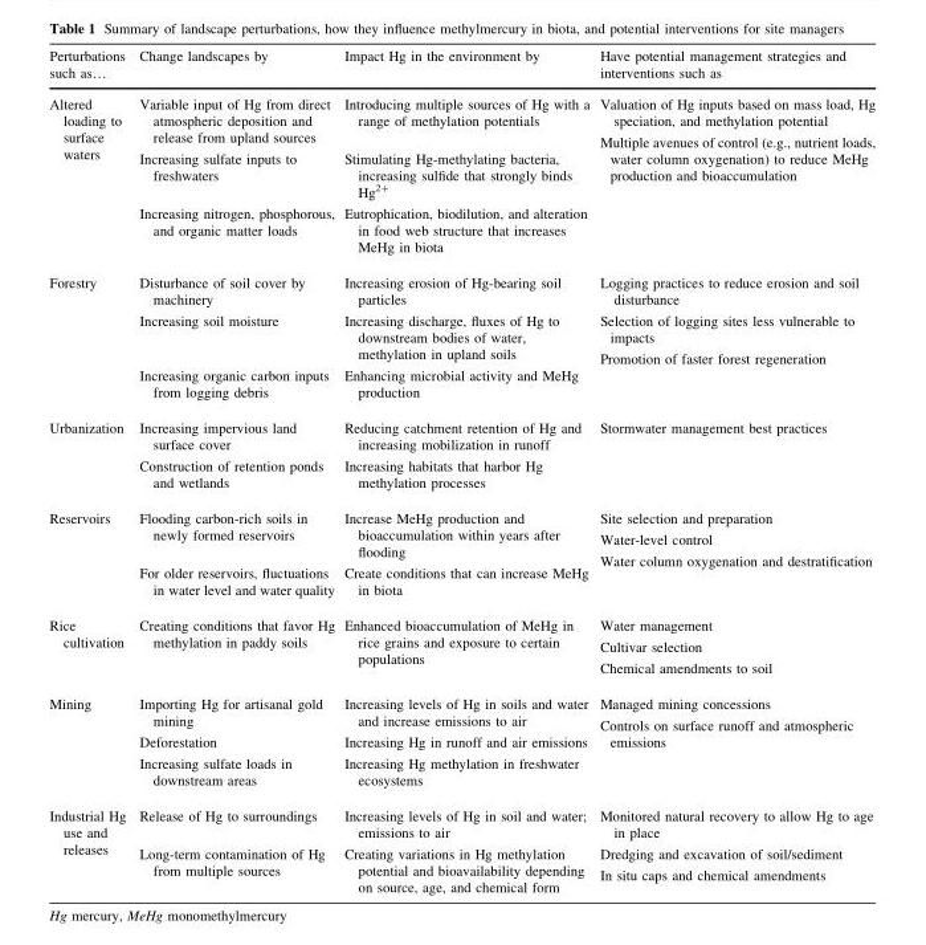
<table><thead><tr><td>Perturbations such as…</td><td>Change landscapes by</td><td>Impact Hg in the environment by</td><td>Have potential management strategies and interventions such as</td></tr></thead><tbody><tr><td rowspan="3">Altered loading to surface waters</td><td>Variable input of Hg from direct atmospheric deposition and release from upland sources</td><td>Introducing multiple sources of Hg with a range of methylation potentials</td><td rowspan="3">Valuation of Hg inputs based on mass load, Hg speciation, and methylation potential Multiple avenues of control (e.g., nutrient loads, water column oxygenation) to reduce MeHg production and bioaccumulation</td></tr><tr><td>Increasing sulfate inputs to freshwaters</td><td>Stimulating Hg-methylating bacteria, increasing sulfide that strongly binds Hg<sup>2+</sup></td></tr><tr><td>Increasing nitrogen, phosphorous, and organic matter loads</td><td>Eutrophication, biodilution, and alteration in food web structure that increases MeHg in biota</td></tr><tr><td rowspan="3">Forestry</td><td>Disturbance of soil cover by machinery</td><td>Increasing erosion of Hg-bearing soil particles</td><td rowspan="3">Logging practices to reduce erosion and soil disturbance Selection of logging sites less vulnerable to impacts Promotion of faster forest regeneration</td></tr><tr><td>Increasing soil moisture</td><td>Increasing discharge, fluxes of Hg to downstream bodies of water, methylation in upland soils</td></tr><tr><td>Increasing organic carbon inputs from logging debris</td><td>Enhancing microbial activity and MeHg production</td></tr><tr><td rowspan="2">Urbanization</td><td>Increasing impervious land surface cover</td><td>Reducing catchment retention of Hg and increasing mobilization in runoff</td><td rowspan="2">Stormwater management best practices</td></tr><tr><td>Construction of retention ponds and wetlands</td><td>Increasing habitats that harbor Hg methylation processes</td></tr><tr><td rowspan="2">Reservoirs</td><td>Flooding carbon-rich soils in newly formed reservoirs</td><td>Increase MeHg production and bioaccumulation within years after flooding</td><td rowspan="2">Site selection and preparation Water-level control Water column oxygenation and destratification</td></tr><tr><td>For older reservoirs, fluctuations in water level and water quality</td><td>Create conditions that can increase MeHg in biota</td></tr><tr><td>Rice cultivation</td><td>Creating conditions that favor Hg methylation in paddy soils</td><td>Enhanced bioaccumulation of MeHg in rice grains and exposure to certain populations</td><td>Water management Cultivar selection Chemical amendments to soil</td></tr><tr><td rowspan="3">Mining</td><td rowspan="2">Importing Hg for artisanal gold mining Deforestation</td><td>Increasing levels of Hg in soils and water and increase emissions to air</td><td rowspan="3">Managed mining concessions Controls on surface runoff and atmospheric emissions</td></tr><tr><td>Increasing Hg in runoff and air emissions</td></tr><tr><td>Increasing sulfate loads in downstream areas</td><td>Increasing Hg methylation in freshwater ecosystems</td></tr><tr><td rowspan="2">Industrial Hg use and releases</td><td>Release of Hg to surroundings</td><td>Increasing levels of Hg in soil and water; emissions to air</td><td rowspan="2">Monitored natural recovery to allow Hg to age in place Dredging and excavation of soil/sediment In situ caps and chemical amendments</td></tr><tr><td>Long-term contamination of Hg from multiple sources</td><td>Creating variations in Hg methylation potential and bioavailability depending on source, age, and chemical form</td></tr></tbody></table>